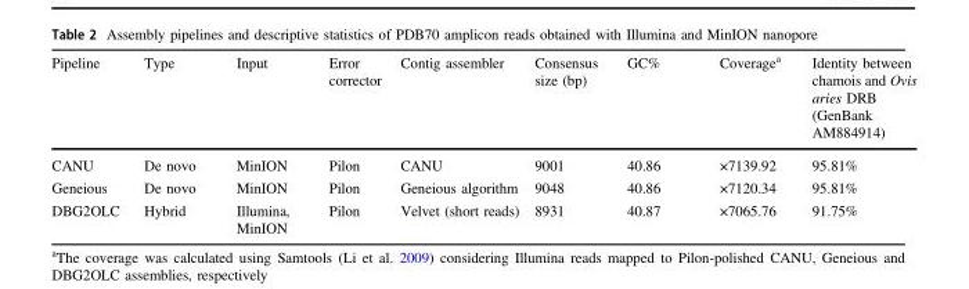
<table><thead><tr><td>Pipeline</td><td>Type</td><td>Input</td><td>Error corrector</td><td>Contig assembler</td><td>Consensus size (bp)</td><td>GC%</td><td>Coverage<sup>a</sup></td><td>Identity between chamois and Ovis aries DRB (GenBank AM884914)</td></tr></thead><tbody><tr><td>CANU</td><td>De novo</td><td>MinION</td><td>Pilon</td><td>CANU</td><td>9001</td><td>40.86</td><td>×7139.92</td><td>95.81%</td></tr><tr><td>Geneious</td><td>De novo</td><td>MinION</td><td>Pilon</td><td>Geneious algorithm</td><td>9048</td><td>40.86</td><td>×7120.34</td><td>95.81%</td></tr><tr><td>DBG2OLC</td><td>Hybrid</td><td>Illumina, MinION</td><td>Pilon</td><td>Velvet (short reads)</td><td>8931</td><td>40.87</td><td>×7065.76</td><td>91.75%</td></tr></tbody></table>